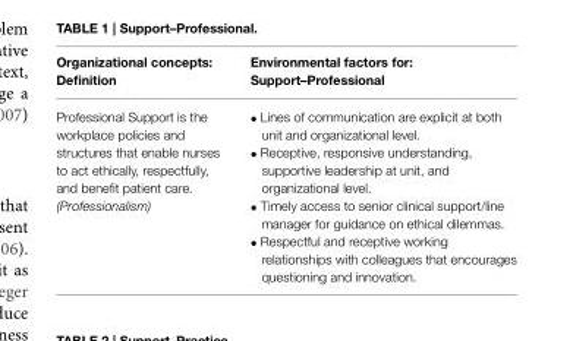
<table><thead><tr><td>Organizational concepts: Definition</td><td>Environmental factors for: Support–Professional</td></tr></thead><tbody><tr><td>Professional Support is the workplace policies and structures that enable nurses to act ethically, respectfully, and benefit patient care. (Professionalism)</td><td>• Lines of communication are explicit at both unit and organizational level. • Receptive, responsive understanding, supportive leadership at unit, and organizational level. • Timely access to senior clinical support/line manager for guidance on ethical dilemmas. • Respectful and receptive working relationships with colleagues that encourages questioning and innovation.</td></tr></tbody></table>